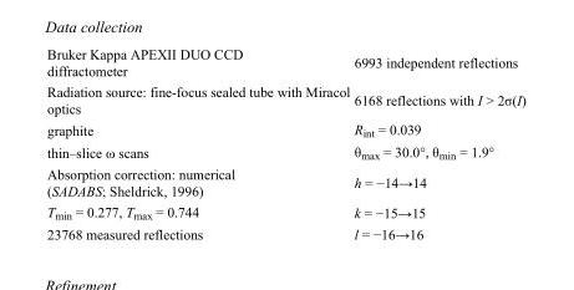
<table><tbody><tr><td>Bruker Kappa APEXII DUO CCD diffractometer</td><td>6993 independent reflections</td></tr><tr><td>Radiation source: fine-focus sealed tube with Miracol optics</td><td>6168 reflections with I &gt; 2σ(I)</td></tr><tr><td>graphite</td><td>R<sub>int</sub> = 0.039</td></tr><tr><td>thin–slice ω scans</td><td>θ<sub>max</sub> = 30.0°, θ<sub>min</sub> = 1.9°</td></tr><tr><td>Absorption correction: numerical (SADABS; Sheldrick, 1996)</td><td>h = −14→14</td></tr><tr><td>T<sub>min</sub> = 0.277, T<sub>max</sub> = 0.744</td><td>k = −15→15</td></tr><tr><td>23768 measured reflections</td><td>l = −16→16</td></tr></tbody></table>